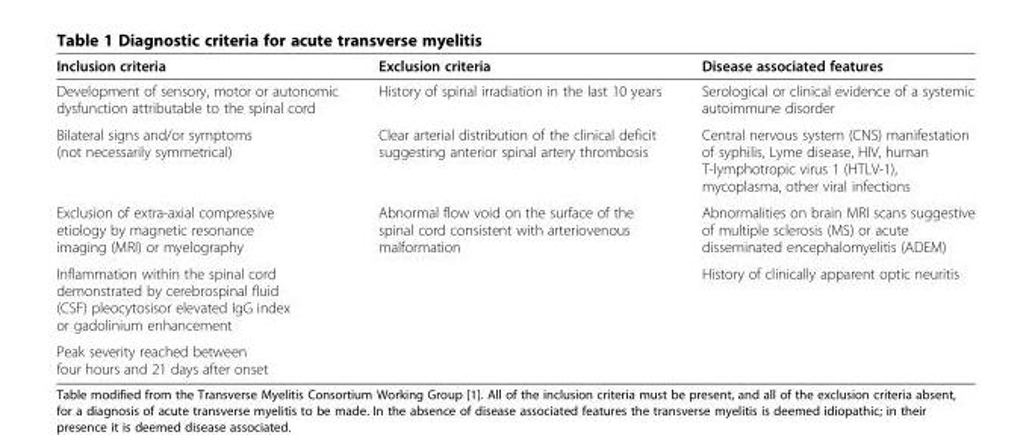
<table><thead><tr><td>Inclusion criteria</td><td>Exclusion criteria</td><td>Disease associated features</td></tr></thead><tbody><tr><td>Development of sensory, motor or autonomic dysfunction attributable to the spinal cord</td><td>History of spinal irradiation in the last 10 years</td><td>Serological or clinical evidence of a systemic autoimmune disorder</td></tr><tr><td>Bilateral signs and/or symptoms (not necessarily symmetrical)</td><td>Clear arterial distribution of the clinical deficit suggesting anterior spinal artery thrombosis</td><td>Central nervous system (CNS) manifestation of syphilis, Lyme disease, HIV, human T-lymphotropic virus 1 (HTLV-1), mycoplasma, other viral infections</td></tr><tr><td>Exclusion of extra-axial compressive etiology by magnetic resonance imaging (MRI) or myelography</td><td>Abnormal flow void on the surface of the spinal cord consistent with arteriovenous malformation</td><td>Abnormalities on brain MRI scans suggestive of multiple sclerosis (MS) or acute disseminated encephalomyelitis (ADEM)</td></tr><tr><td>Inflammation within the spinal cord demonstrated by cerebrospinal fluid (CSF) pleocytosisor elevated IgG index or gadolinium enhancement</td><td></td><td>History of clinically apparent optic neuritis</td></tr><tr><td>Peak severity reached between four hours and 21 days after onset</td><td></td><td></td></tr></tbody></table>